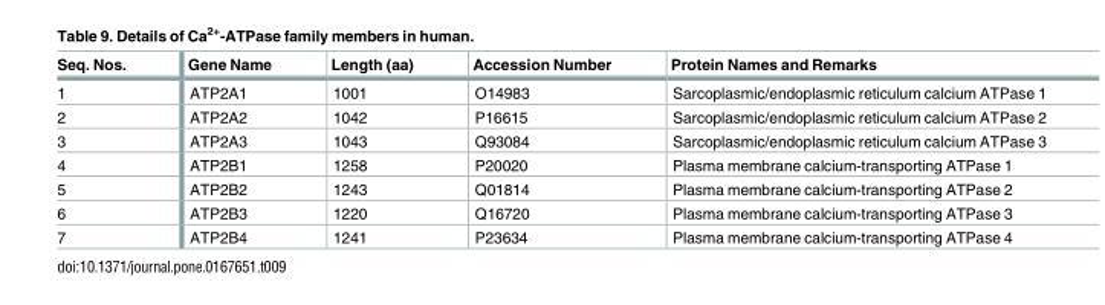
<table><thead><tr><td>Seq. Nos.</td><td>Gene Name</td><td>Length (aa)</td><td>Accession Number</td><td>Protein Names and Remarks</td></tr></thead><tbody><tr><td>1</td><td>ATP2A1</td><td>1001</td><td>O14983</td><td>Sarcoplasmic/endoplasmic reticulum calcium ATPase 1</td></tr><tr><td>2</td><td>ATP2A2</td><td>1042</td><td>P16615</td><td>Sarcoplasmic/endoplasmic reticulum calcium ATPase 2</td></tr><tr><td>3</td><td>ATP2A3</td><td>1043</td><td>Q93084</td><td>Sarcoplasmic/endoplasmic reticulum calcium ATPase 3</td></tr><tr><td>4</td><td>ATP2B1</td><td>1258</td><td>P20020</td><td>Plasma membrane calcium-transporting ATPase 1</td></tr><tr><td>5</td><td>ATP2B2</td><td>1243</td><td>Q01814</td><td>Plasma membrane calcium-transporting ATPase 2</td></tr><tr><td>6</td><td>ATP2B3</td><td>1220</td><td>Q16720</td><td>Plasma membrane calcium-transporting ATPase 3</td></tr><tr><td>7</td><td>ATP2B4</td><td>1241</td><td>P23634</td><td>Plasma membrane calcium-transporting ATPase 4</td></tr></tbody></table>